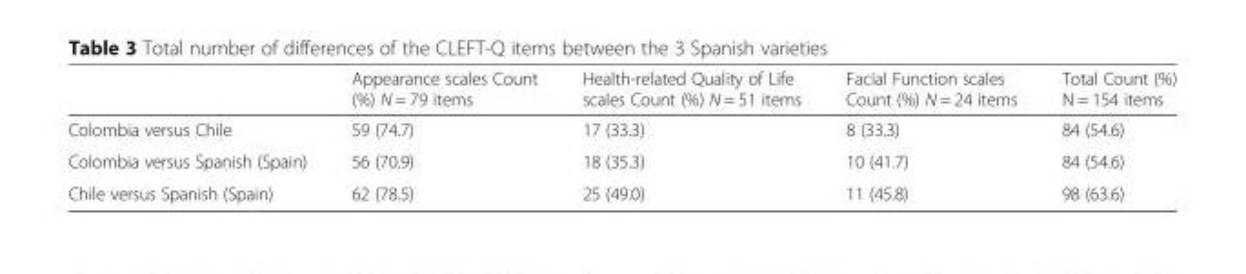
<table><thead><tr><td></td><td>Appearance scales Count (%) N = 79 items</td><td>Health-related Quality of Life scales Count (%) N = 51 items</td><td>Facial Function scales Count (%) N = 24 items</td><td>Total Count (%) N = 154 items</td></tr></thead><tbody><tr><td>Colombia versus Chile</td><td>59 (74.7)</td><td>17 (33.3)</td><td>8 (33.3)</td><td>84 (54.6)</td></tr><tr><td>Colombia versus Spanish (Spain)</td><td>56 (70.9)</td><td>18 (35.3)</td><td>10 (41.7)</td><td>84 (54.6)</td></tr><tr><td>Chile versus Spanish (Spain)</td><td>62 (78.5)</td><td>25 (49.0)</td><td>11 (45.8)</td><td>98 (63.6)</td></tr></tbody></table>